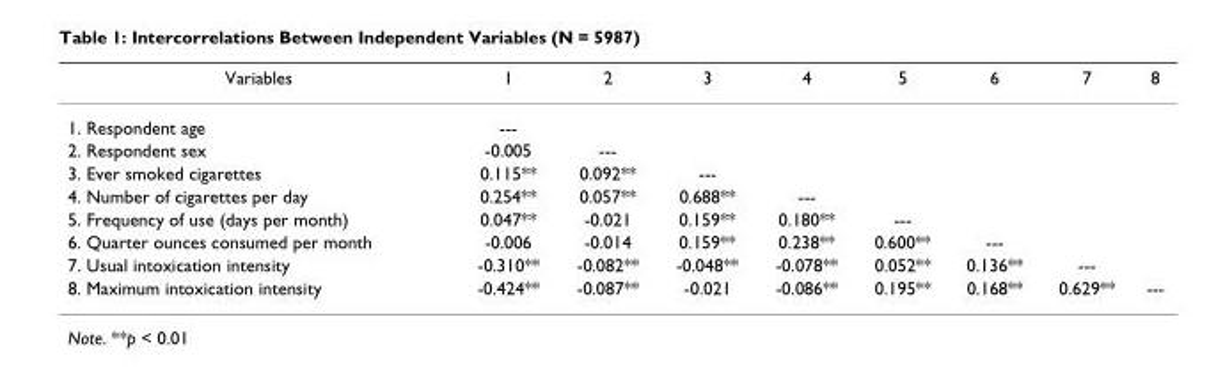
<table><thead><tr><td>Variables</td><td>1</td><td>2</td><td>3</td><td>4</td><td>5</td><td>6</td><td>7</td><td>8</td></tr></thead><tbody><tr><td>1. Respondent age</td><td>---</td><td></td><td></td><td></td><td></td><td></td><td></td><td></td></tr><tr><td>2. Respondent sex</td><td>-0.005</td><td>---</td><td></td><td></td><td></td><td></td><td></td><td></td></tr><tr><td>3. Ever smoked cigarettes</td><td>0.115**</td><td>0.092**</td><td>---</td><td></td><td></td><td></td><td></td><td></td></tr><tr><td>4. Number of cigarettes per day</td><td>0.254**</td><td>0.057**</td><td>0.688**</td><td>---</td><td></td><td></td><td></td><td></td></tr><tr><td>5. Frequency of use (days per month)</td><td>0.047**</td><td>-0.021</td><td>0.159**</td><td>0.180**</td><td>---</td><td></td><td></td><td></td></tr><tr><td>6. Quarter ounces consumed per month</td><td>-0.006</td><td>-0.014</td><td>0.159**</td><td>0.238**</td><td>0.600**</td><td>---</td><td></td><td></td></tr><tr><td>7. Usual intoxication intensity</td><td>-0.310**</td><td>-0.082**</td><td>-0.048**</td><td>-0.078**</td><td>0.052**</td><td>0.136**</td><td>---</td><td></td></tr><tr><td>8. Maximum intoxication intensity</td><td>-0.424**</td><td>-0.087**</td><td>-0.021</td><td>-0.086**</td><td>0.195**</td><td>0.168**</td><td>0.629**</td><td>---</td></tr></tbody></table>